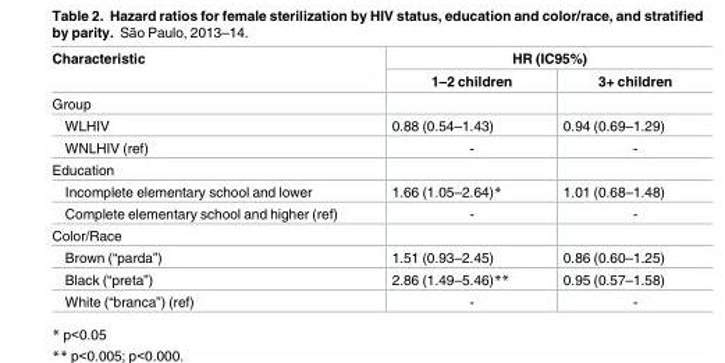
<table><thead><tr><td rowspan="2">Characteristic</td><td colspan="2">HR (IC95%)</td></tr><tr><td>1–2 children</td><td>3+ children</td></tr></thead><tbody><tr><td colspan="3">Group</td></tr><tr><td>WLHIV</td><td>0.88 (0.54–1.43)</td><td>0.94 (0.69–1.29)</td></tr><tr><td>WNLHIV (ref)</td><td>-</td><td>-</td></tr><tr><td colspan="3">Education</td></tr><tr><td>Incomplete elementary school and lower</td><td>1.66 (1.05–2.64)*</td><td>1.01 (0.68–1.48)</td></tr><tr><td>Complete elementary school and higher (ref)</td><td>-</td><td>-</td></tr><tr><td colspan="3">Color/Race</td></tr><tr><td>Brown (“parda”)</td><td>1.51 (0.93–2.45)</td><td>0.86 (0.60–1.25)</td></tr><tr><td>Black (“preta”)</td><td>2.86 (1.49–5.46)**</td><td>0.95 (0.57–1.58)</td></tr><tr><td>White (“branca”) (ref)</td><td>-</td><td>-</td></tr></tbody></table>